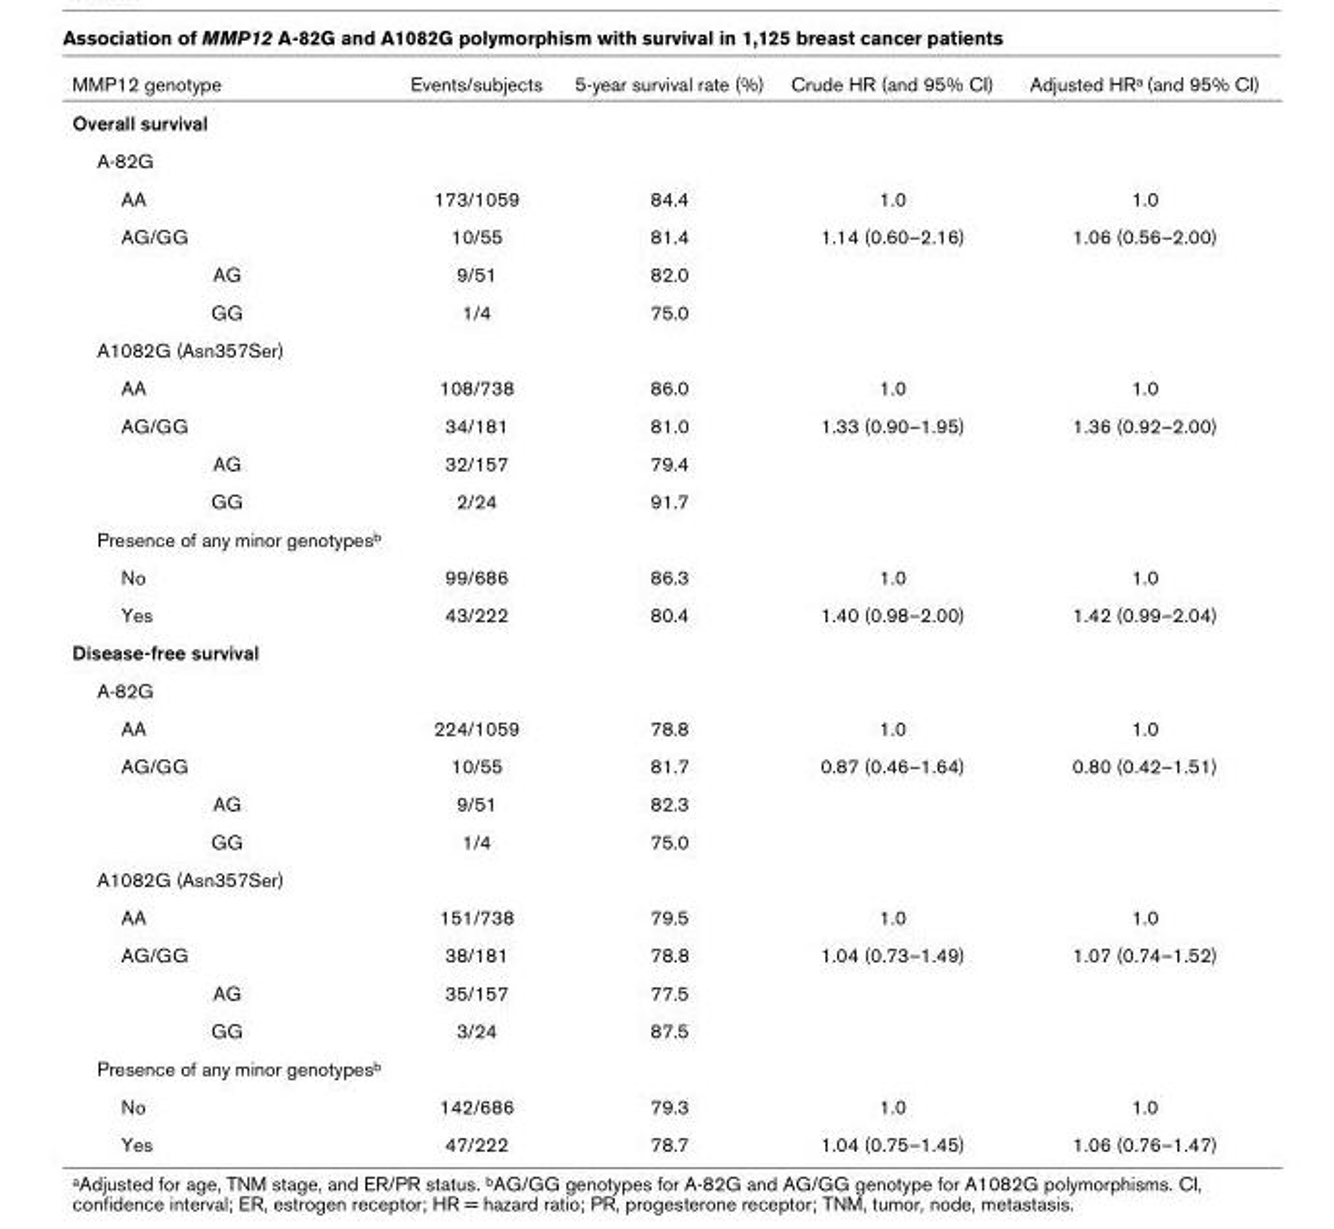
<table><thead><tr><td>MMP12 genotype</td><td>Events/subjects</td><td>5-year survival rate (%)</td><td>Crude HR (and 95% CI)</td><td>Adjusted HRa (and 95% CI)</td></tr></thead><tbody><tr><td colspan="5">Overall survival</td></tr><tr><td colspan="5">A-82G</td></tr><tr><td>AA</td><td>173/1059</td><td>84.4</td><td>1.0</td><td>1.0</td></tr><tr><td>AG/GG</td><td>10/55</td><td>81.4</td><td>1.14 (0.60–2.16)</td><td>1.06 (0.56–2.00)</td></tr><tr><td>AG</td><td>9/51</td><td>82.0</td><td></td><td></td></tr><tr><td>GG</td><td>1/4</td><td>75.0</td><td></td><td></td></tr><tr><td colspan="5">A1082G (Asn357Ser)</td></tr><tr><td>AA</td><td>108/738</td><td>86.0</td><td>1.0</td><td>1.0</td></tr><tr><td>AG/GG</td><td>34/181</td><td>81.0</td><td>1.33 (0.90–1.95)</td><td>1.36 (0.92–2.00)</td></tr><tr><td>AG</td><td>32/157</td><td>79.4</td><td></td><td></td></tr><tr><td>GG</td><td>2/24</td><td>91.7</td><td></td><td></td></tr><tr><td colspan="5">Presence of any minor genotypesb</td></tr><tr><td>No</td><td>99/686</td><td>86.3</td><td>1.0</td><td>1.0</td></tr><tr><td>Yes</td><td>43/222</td><td>80.4</td><td>1.40 (0.98–2.00)</td><td>1.42 (0.99–2.04)</td></tr><tr><td colspan="5">Disease-free survival</td></tr><tr><td colspan="5">A-82G</td></tr><tr><td>AA</td><td>224/1059</td><td>78.8</td><td>1.0</td><td>1.0</td></tr><tr><td>AG/GG</td><td>10/55</td><td>81.7</td><td>0.87 (0.46–1.64)</td><td>0.80 (0.42–1.51)</td></tr><tr><td>AG</td><td>9/51</td><td>82.3</td><td></td><td></td></tr><tr><td>GG</td><td>1/4</td><td>75.0</td><td></td><td></td></tr><tr><td colspan="5">A1082G (Asn357Ser)</td></tr><tr><td>AA</td><td>151/738</td><td>79.5</td><td>1.0</td><td>1.0</td></tr><tr><td>AG/GG</td><td>38/181</td><td>78.8</td><td>1.04 (0.73–1.49)</td><td>1.07 (0.74–1.52)</td></tr><tr><td>AG</td><td>35/157</td><td>77.5</td><td></td><td></td></tr><tr><td>GG</td><td>3/24</td><td>87.5</td><td></td><td></td></tr><tr><td colspan="5">Presence of any minor genotypesb</td></tr><tr><td>No</td><td>142/686</td><td>79.3</td><td>1.0</td><td>1.0</td></tr><tr><td>Yes</td><td>47/222</td><td>78.7</td><td>1.04 (0.75–1.45)</td><td>1.06 (0.76–1.47)</td></tr></tbody></table>